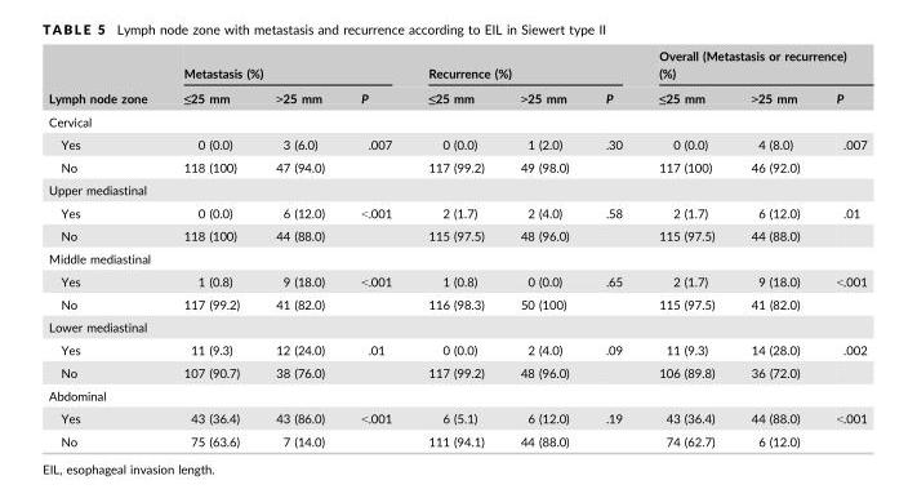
<table><thead><tr><td rowspan="2">Lymph node zone</td><td colspan="3">Metastasis (%)</td><td colspan="3">Recurrence (%)</td><td colspan="3">Overall (Metastasis or recurrence) (%)</td></tr><tr><td>≤25 mm</td><td>&gt;25 mm</td><td>P</td><td>≤25 mm</td><td>&gt;25 mm</td><td>P</td><td>≤25 mm</td><td>&gt;25 mm</td><td>P</td></tr></thead><tbody><tr><td colspan="10">Cervical</td></tr><tr><td>Yes</td><td>0 (0.0)</td><td>3 (6.0)</td><td>.007</td><td>0 (0.0)</td><td>1 (2.0)</td><td>.30</td><td>0 (0.0)</td><td>4 (8.0)</td><td>.007</td></tr><tr><td>No</td><td>118 (100)</td><td>47 (94.0)</td><td></td><td>117 (99.2)</td><td>49 (98.0)</td><td></td><td>117 (100)</td><td>46 (92.0)</td><td></td></tr><tr><td colspan="10">Upper mediastinal</td></tr><tr><td>Yes</td><td>0 (0.0)</td><td>6 (12.0)</td><td>&lt;.001</td><td>2 (1.7)</td><td>2 (4.0)</td><td>.58</td><td>2 (1.7)</td><td>6 (12.0)</td><td>.01</td></tr><tr><td>No</td><td>118 (100)</td><td>44 (88.0)</td><td></td><td>115 (97.5)</td><td>48 (96.0)</td><td></td><td>115 (97.5)</td><td>44 (88.0)</td><td></td></tr><tr><td colspan="10">Middle mediastinal</td></tr><tr><td>Yes</td><td>1 (0.8)</td><td>9 (18.0)</td><td>&lt;.001</td><td>1 (0.8)</td><td>0 (0.0)</td><td>.65</td><td>2 (1.7)</td><td>9 (18.0)</td><td>&lt;.001</td></tr><tr><td>No</td><td>117 (99.2)</td><td>41 (82.0)</td><td></td><td>116 (98.3)</td><td>50 (100)</td><td></td><td>115 (97.5)</td><td>41 (82.0)</td><td></td></tr><tr><td colspan="10">Lower mediastinal</td></tr><tr><td>Yes</td><td>11 (9.3)</td><td>12 (24.0)</td><td>.01</td><td>0 (0.0)</td><td>2 (4.0)</td><td>.09</td><td>11 (9.3)</td><td>14 (28.0)</td><td>.002</td></tr><tr><td>No</td><td>107 (90.7)</td><td>38 (76.0)</td><td></td><td>117 (99.2)</td><td>48 (96.0)</td><td></td><td>106 (89.8)</td><td>36 (72.0)</td><td></td></tr><tr><td colspan="10">Abdominal</td></tr><tr><td>Yes</td><td>43 (36.4)</td><td>43 (86.0)</td><td>&lt;.001</td><td>6 (5.1)</td><td>6 (12.0)</td><td>.19</td><td>43 (36.4)</td><td>44 (88.0)</td><td>&lt;.001</td></tr><tr><td>No</td><td>75 (63.6)</td><td>7 (14.0)</td><td></td><td>111 (94.1)</td><td>44 (88.0)</td><td></td><td>74 (62.7)</td><td>6 (12.0)</td><td></td></tr></tbody></table>